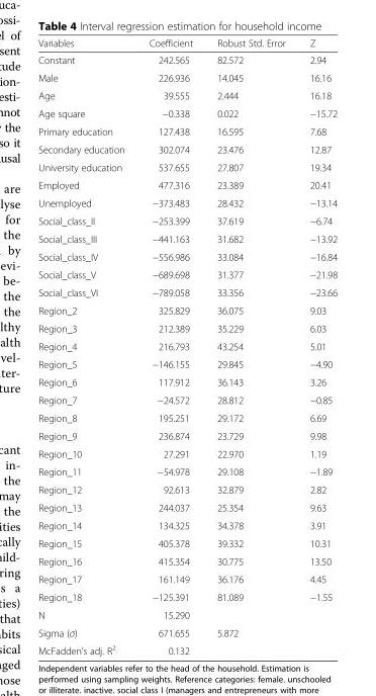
<table><thead><tr><td>Variables</td><td>Coefficient</td><td>Robust Std. Error</td><td>Z</td></tr></thead><tbody><tr><td>Constant</td><td>242.565</td><td>82.572</td><td>2.94</td></tr><tr><td>Male</td><td>226.936</td><td>14.045</td><td>16.16</td></tr><tr><td>Age</td><td>39.555</td><td>2.444</td><td>16.18</td></tr><tr><td>Age square</td><td>−0.338</td><td>0.022</td><td>−15.72</td></tr><tr><td>Primary education</td><td>127.438</td><td>16.595</td><td>7.68</td></tr><tr><td>Secondary education</td><td>302.074</td><td>23.476</td><td>12.87</td></tr><tr><td>University education</td><td>537.655</td><td>27.807</td><td>19.34</td></tr><tr><td>Employed</td><td>477.316</td><td>23.389</td><td>20.41</td></tr><tr><td>Unemployed</td><td>−373.483</td><td>28.432</td><td>−13.14</td></tr><tr><td>Social_class_II</td><td>−253.399</td><td>37.619</td><td>−6.74</td></tr><tr><td>Social_class_III</td><td>−441.163</td><td>31.682</td><td>−13.92</td></tr><tr><td>Social_class_IV</td><td>−556.986</td><td>33.084</td><td>−16.84</td></tr><tr><td>Social_class_V</td><td>−689.698</td><td>31.377</td><td>−21.98</td></tr><tr><td>Social_class_VI</td><td>−789.058</td><td>33.356</td><td>−23.66</td></tr><tr><td>Region_2</td><td>325.829</td><td>36.075</td><td>9.03</td></tr><tr><td>Region_3</td><td>212.389</td><td>35.229</td><td>6.03</td></tr><tr><td>Region_4</td><td>216.793</td><td>43.254</td><td>5.01</td></tr><tr><td>Region_5</td><td>−146.155</td><td>29.845</td><td>−4.90</td></tr><tr><td>Region_6</td><td>117.912</td><td>36.143</td><td>3.26</td></tr><tr><td>Region_7</td><td>−24.572</td><td>28.812</td><td>−0.85</td></tr><tr><td>Region_8</td><td>195.251</td><td>29.172</td><td>6.69</td></tr><tr><td>Region_9</td><td>236.874</td><td>23.729</td><td>9.98</td></tr><tr><td>Region_10</td><td>27.291</td><td>22.970</td><td>1.19</td></tr><tr><td>Region_11</td><td>−54.978</td><td>29.108</td><td>−1.89</td></tr><tr><td>Region_12</td><td>92.613</td><td>32.879</td><td>2.82</td></tr><tr><td>Region_13</td><td>244.037</td><td>25.354</td><td>9.63</td></tr><tr><td>Region_14</td><td>134.325</td><td>34.378</td><td>3.91</td></tr><tr><td>Region_15</td><td>405.378</td><td>39.332</td><td>10.31</td></tr><tr><td>Region_16</td><td>415.354</td><td>30.775</td><td>13.50</td></tr><tr><td>Region_17</td><td>161.149</td><td>36.176</td><td>4.45</td></tr><tr><td>Region_18</td><td>−125.391</td><td>81.089</td><td>−1.55</td></tr><tr><td>N</td><td>15.290</td><td></td><td></td></tr><tr><td>Sigma (σ)</td><td>671.655</td><td>5.872</td><td></td></tr><tr><td>McFadden’s adj. R<sup>2</sup></td><td>0.132</td><td></td><td></td></tr></tbody></table>